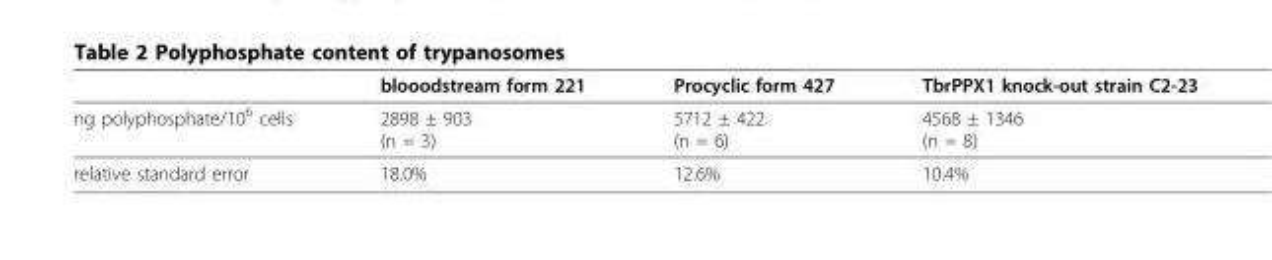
<table><thead><tr><td></td><td>blooodstream form 221</td><td>Procyclic form 427</td><td>TbrPPX1 knock-out strain C2-23</td></tr></thead><tbody><tr><td>ng polyphosphate/10<sup>6</sup> cells</td><td>2898 ± 903 (n = 3)</td><td>5712 ± 422 (n = 6)</td><td>4568 ± 1346 (n = 8)</td></tr><tr><td>relative standard error</td><td>18.0%</td><td>12.6%</td><td>10.4%</td></tr></tbody></table>